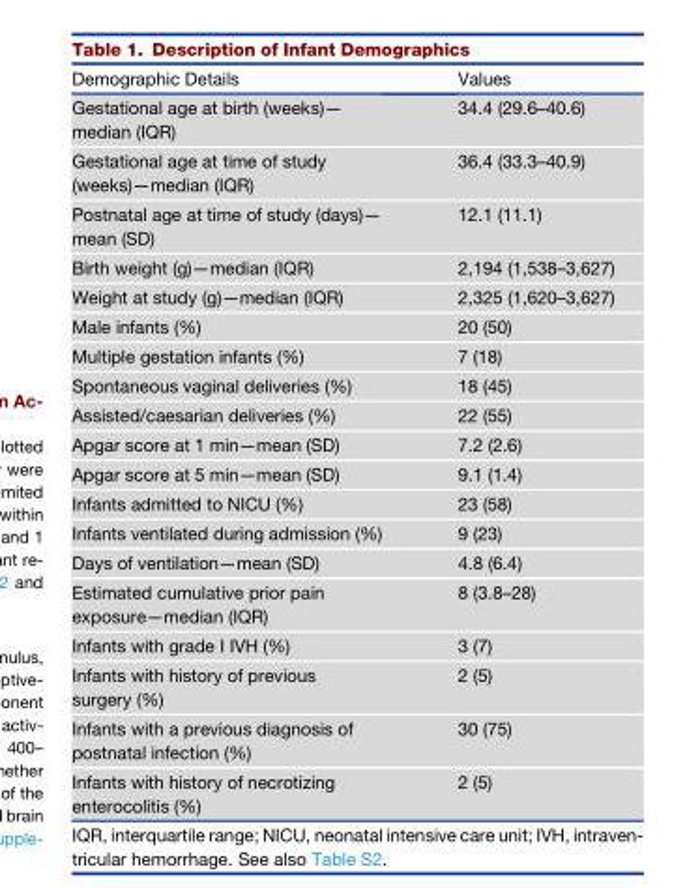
<table><thead><tr><td>Demographic Details</td><td>Values</td></tr></thead><tbody><tr><td>Gestational age at birth (weeks)— median (IQR)</td><td>34.4 (29.6–40.6)</td></tr><tr><td>Gestational age at time of study (weeks)—median (IQR)</td><td>36.4 (33.3–40.9)</td></tr><tr><td>Postnatal age at time of study (days)— mean (SD)</td><td>12.1 (11.1)</td></tr><tr><td>Birth weight (g)—median (IQR)</td><td>2,194 (1,538–3,627)</td></tr><tr><td>Weight at study (g)—median (IQR)</td><td>2,325 (1,620–3,627)</td></tr><tr><td>Male infants (%)</td><td>20 (50)</td></tr><tr><td>Multiple gestation infants (%)</td><td>7 (18)</td></tr><tr><td>Spontaneous vaginal deliveries (%)</td><td>18 (45)</td></tr><tr><td>Assisted/caesarian deliveries (%)</td><td>22 (55)</td></tr><tr><td>Apgar score at 1 min—mean (SD)</td><td>7.2 (2.6)</td></tr><tr><td>Apgar score at 5 min—mean (SD)</td><td>9.1 (1.4)</td></tr><tr><td>Infants admitted to NICU (%)</td><td>23 (58)</td></tr><tr><td>Infants ventilated during admission (%)</td><td>9 (23)</td></tr><tr><td>Days of ventilation—mean (SD)</td><td>4.8 (6.4)</td></tr><tr><td>Estimated cumulative prior pain exposure—median (IQR)</td><td>8 (3.8–28)</td></tr><tr><td>Infants with grade I IVH (%)</td><td>3 (7)</td></tr><tr><td>Infants with history of previous surgery (%)</td><td>2 (5)</td></tr><tr><td>Infants with a previous diagnosis of postnatal infection (%)</td><td>30 (75)</td></tr><tr><td>Infants with history of necrotizing enterocolitis (%)</td><td>2 (5)</td></tr></tbody></table>